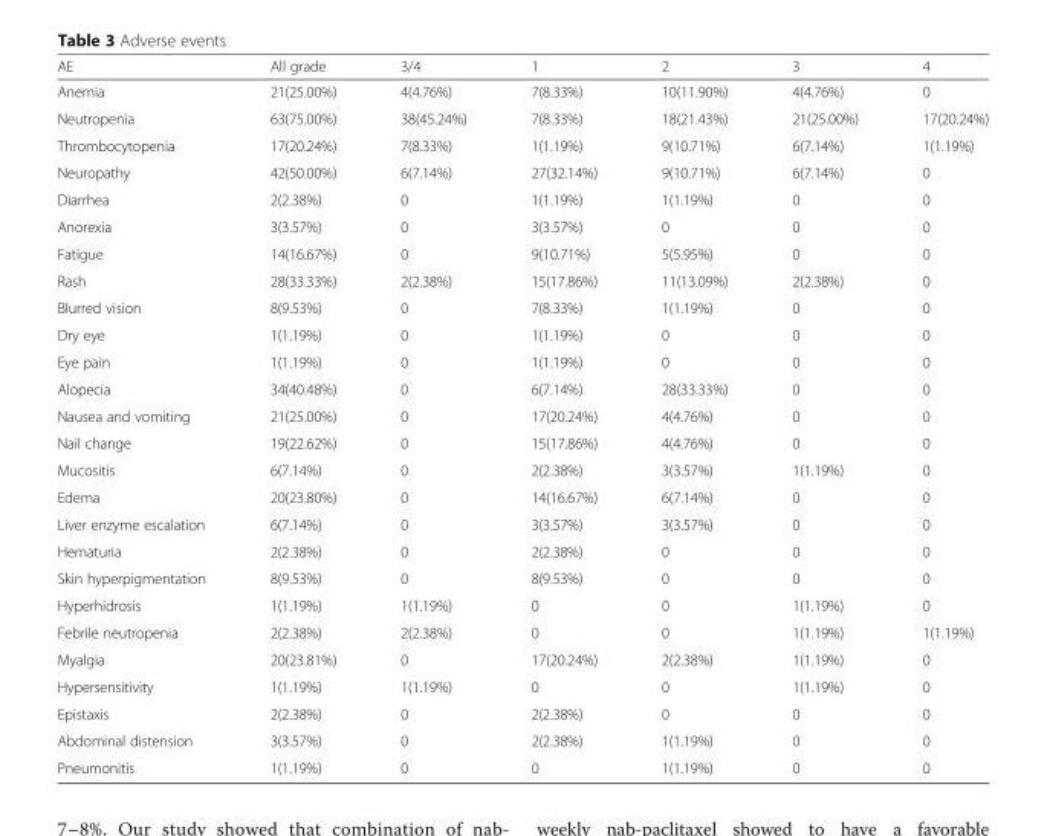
<table><thead><tr><td>AE</td><td>All grade</td><td>3/4</td><td>1</td><td>2</td><td>3</td><td>4</td></tr></thead><tbody><tr><td>Anemia</td><td>21(25.00%)</td><td>4(4.76%)</td><td>7(8.33%)</td><td>10(11.90%)</td><td>4(4.76%)</td><td>0</td></tr><tr><td>Neutropenia</td><td>63(75.00%)</td><td>38(45.24%)</td><td>7(8.33%)</td><td>18(21.43%)</td><td>21(25.00%)</td><td>17(20.24%)</td></tr><tr><td>Thrombocytopenia</td><td>17(20.24%)</td><td>7(8.33%)</td><td>1(1.19%)</td><td>9(10.71%)</td><td>6(7.14%)</td><td>1(1.19%)</td></tr><tr><td>Neuropathy</td><td>42(50.00%)</td><td>6(7.14%)</td><td>27(32.14%)</td><td>9(10.71%)</td><td>6(7.14%)</td><td>0</td></tr><tr><td>Diarrhea</td><td>2(2.38%)</td><td>0</td><td>1(1.19%)</td><td>1(1.19%)</td><td>0</td><td>0</td></tr><tr><td>Anorexia</td><td>3(3.57%)</td><td>0</td><td>3(3.57%)</td><td>0</td><td>0</td><td>0</td></tr><tr><td>Fatigue</td><td>14(16.67%)</td><td>0</td><td>9(10.71%)</td><td>5(5.95%)</td><td>0</td><td>0</td></tr><tr><td>Rash</td><td>28(33.33%)</td><td>2(2.38%)</td><td>15(17.86%)</td><td>11(13.09%)</td><td>2(2.38%)</td><td>0</td></tr><tr><td>Blurred vision</td><td>8(9.53%)</td><td>0</td><td>7(8.33%)</td><td>1(1.19%)</td><td>0</td><td>0</td></tr><tr><td>Dry eye</td><td>1(1.19%)</td><td>0</td><td>1(1.19%)</td><td>0</td><td>0</td><td>0</td></tr><tr><td>Eye pain</td><td>1(1.19%)</td><td>0</td><td>1(1.19%)</td><td>0</td><td>0</td><td>0</td></tr><tr><td>Alopecia</td><td>34(40.48%)</td><td>0</td><td>6(7.14%)</td><td>28(33.33%)</td><td>0</td><td>0</td></tr><tr><td>Nausea and vomiting</td><td>21(25.00%)</td><td>0</td><td>17(20.24%)</td><td>4(4.76%)</td><td>0</td><td>0</td></tr><tr><td>Nail change</td><td>19(22.62%)</td><td>0</td><td>15(17.86%)</td><td>4(4.76%)</td><td>0</td><td>0</td></tr><tr><td>Mucositis</td><td>6(7.14%)</td><td>0</td><td>2(2.38%)</td><td>3(3.57%)</td><td>1(1.19%)</td><td>0</td></tr><tr><td>Edema</td><td>20(23.80%)</td><td>0</td><td>14(16.67%)</td><td>6(7.14%)</td><td>0</td><td>0</td></tr><tr><td>Liver enzyme escalation</td><td>6(7.14%)</td><td>0</td><td>3(3.57%)</td><td>3(3.57%)</td><td>0</td><td>0</td></tr><tr><td>Hematuria</td><td>2(2.38%)</td><td>0</td><td>2(2.38%)</td><td>0</td><td>0</td><td>0</td></tr><tr><td>Skin hyperpigmentation</td><td>8(9.53%)</td><td>0</td><td>8(9.53%)</td><td>0</td><td>0</td><td>0</td></tr><tr><td>Hyperhidrosis</td><td>1(1.19%)</td><td>1(1.19%)</td><td>0</td><td>0</td><td>1(1.19%)</td><td>0</td></tr><tr><td>Febrile neutropenia</td><td>2(2.38%)</td><td>2(2.38%)</td><td>0</td><td>0</td><td>1(1.19%)</td><td>1(1.19%)</td></tr><tr><td>Myalgia</td><td>20(23.81%)</td><td>0</td><td>17(20.24%)</td><td>2(2.38%)</td><td>1(1.19%)</td><td>0</td></tr><tr><td>Hypersensitivity</td><td>1(1.19%)</td><td>1(1.19%)</td><td>0</td><td>0</td><td>1(1.19%)</td><td>0</td></tr><tr><td>Epistaxis</td><td>2(2.38%)</td><td>0</td><td>2(2.38%)</td><td>0</td><td>0</td><td>0</td></tr><tr><td>Abdominal distension</td><td>3(3.57%)</td><td>0</td><td>2(2.38%)</td><td>1(1.19%)</td><td>0</td><td>0</td></tr><tr><td>Pneumonitis</td><td>1(1.19%)</td><td>0</td><td>0</td><td>1(1.19%)</td><td>0</td><td>0</td></tr></tbody></table>